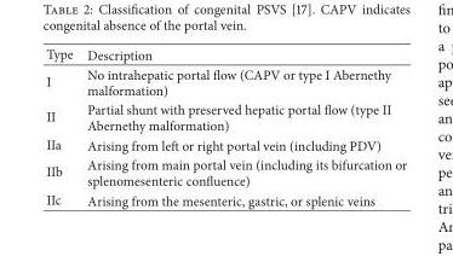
<table><thead><tr><td>Type</td><td>Description</td></tr></thead><tbody><tr><td>I</td><td>No intrahepatic portal flow (CAPV or type I Abernethy malformation)</td></tr><tr><td>II</td><td>Partial shunt with preserved hepatic portal flow (type II Abernethy malformation)</td></tr><tr><td>IIa</td><td>Arising from left or right portal vein (including PDV)</td></tr><tr><td>IIb</td><td>Arising from main portal vein (including its bifurcation or splenomesenteric confluence)</td></tr><tr><td>IIc</td><td>Arising from the mesenteric, gastric, or splenic veins</td></tr></tbody></table>